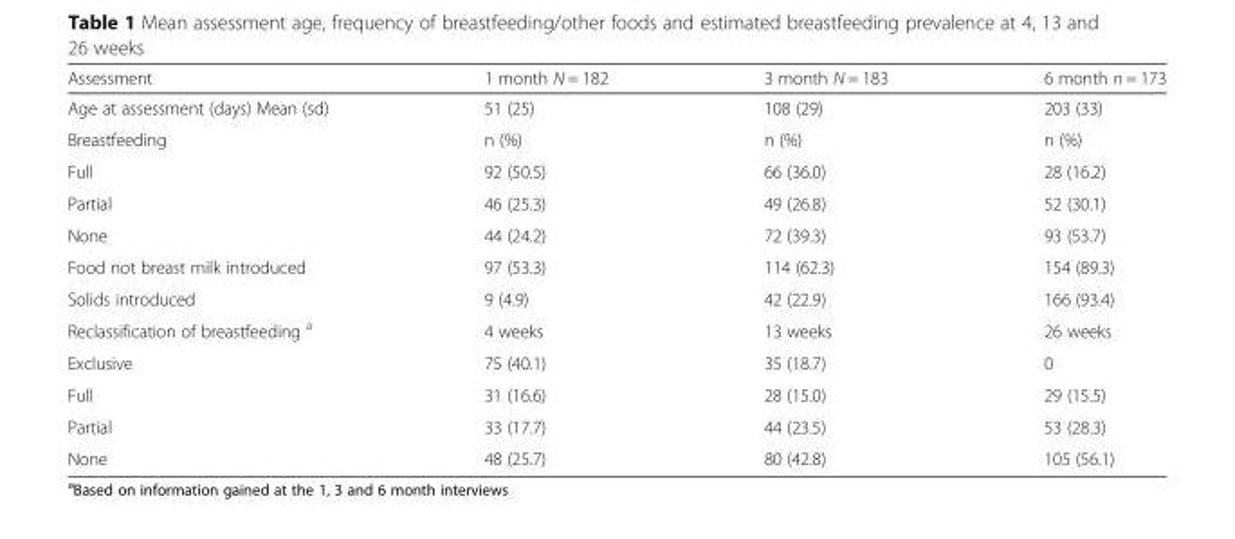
<table><thead><tr><td>Assessment</td><td>1 month N = 182</td><td>3 month N = 183</td><td>6 month n = 173</td></tr></thead><tbody><tr><td>Age at assessment (days) Mean (sd)</td><td>51 (25)</td><td>108 (29)</td><td>203 (33)</td></tr><tr><td>Breastfeeding</td><td>n (%)</td><td>n (%)</td><td>n (%)</td></tr><tr><td>Full</td><td>92 (50.5)</td><td>66 (36.0)</td><td>28 (16.2)</td></tr><tr><td>Partial</td><td>46 (25.3)</td><td>49 (26.8)</td><td>52 (30.1)</td></tr><tr><td>None</td><td>44 (24.2)</td><td>72 (39.3)</td><td>93 (53.7)</td></tr><tr><td>Food not breast milk introduced</td><td>97 (53.3)</td><td>114 (62.3)</td><td>154 (89.3)</td></tr><tr><td>Solids introduced</td><td>9 (4.9)</td><td>42 (22.9)</td><td>166 (93.4)</td></tr><tr><td>Reclassification of breastfeeding <sup>a</sup></td><td>4 weeks</td><td>13 weeks</td><td>26 weeks</td></tr><tr><td>Exclusive</td><td>75 (40.1)</td><td>35 (18.7)</td><td>0</td></tr><tr><td>Full</td><td>31 (16.6)</td><td>28 (15.0)</td><td>29 (15.5)</td></tr><tr><td>Partial</td><td>33 (17.7)</td><td>44 (23.5)</td><td>53 (28.3)</td></tr><tr><td>None</td><td>48 (25.7)</td><td>80 (42.8)</td><td>105 (56.1)</td></tr></tbody></table>